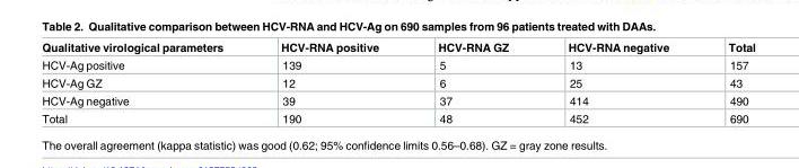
<table><thead><tr><td>Qualitative virological parameters</td><td>HCV-RNA positive</td><td>HCV-RNA GZ</td><td>HCV-RNA negative</td><td>Total</td></tr></thead><tbody><tr><td>HCV-Ag positive</td><td>139</td><td>5</td><td>13</td><td>157</td></tr><tr><td>HCV-Ag GZ</td><td>12</td><td>6</td><td>25</td><td>43</td></tr><tr><td>HCV-Ag negative</td><td>39</td><td>37</td><td>414</td><td>490</td></tr><tr><td>Total</td><td>190</td><td>48</td><td>452</td><td>690</td></tr></tbody></table>